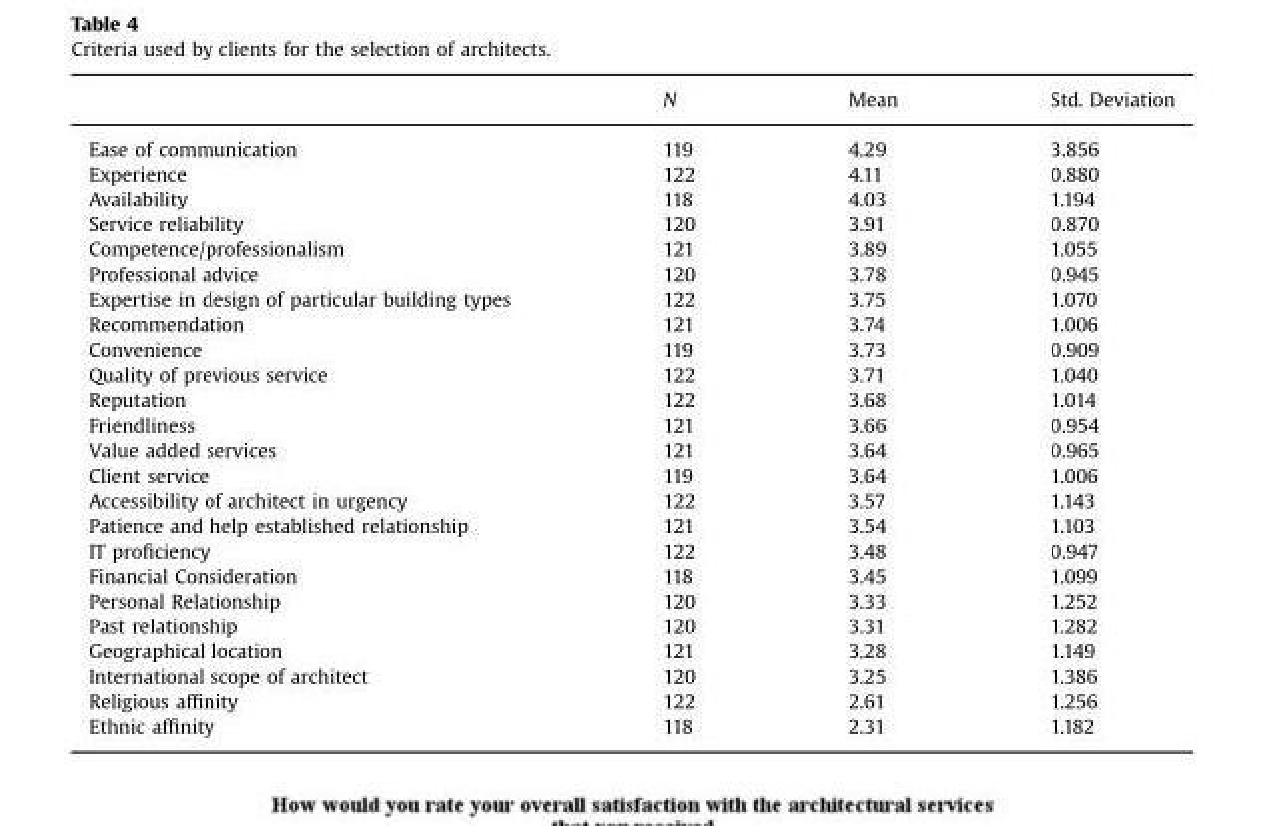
<table><thead><tr><td></td><td>N</td><td>Mean</td><td>Std. Deviation</td></tr></thead><tbody><tr><td>Ease of communication</td><td>119</td><td>4.29</td><td>3.856</td></tr><tr><td>Experience</td><td>122</td><td>4.11</td><td>0.880</td></tr><tr><td>Availability</td><td>118</td><td>4.03</td><td>1.194</td></tr><tr><td>Service reliability</td><td>120</td><td>3.91</td><td>0.870</td></tr><tr><td>Competence/professionalism</td><td>121</td><td>3.89</td><td>1.055</td></tr><tr><td>Professional advice</td><td>120</td><td>3.78</td><td>0.945</td></tr><tr><td>Expertise in design of particular building types</td><td>122</td><td>3.75</td><td>1.070</td></tr><tr><td>Recommendation</td><td>121</td><td>3.74</td><td>1.006</td></tr><tr><td>Convenience</td><td>119</td><td>3.73</td><td>0.909</td></tr><tr><td>Quality of previous service</td><td>122</td><td>3.71</td><td>1.040</td></tr><tr><td>Reputation</td><td>122</td><td>3.68</td><td>1.014</td></tr><tr><td>Friendliness</td><td>121</td><td>3.66</td><td>0.954</td></tr><tr><td>Value added services</td><td>121</td><td>3.64</td><td>0.965</td></tr><tr><td>Client service</td><td>119</td><td>3.64</td><td>1.006</td></tr><tr><td>Accessibility of architect in urgency</td><td>122</td><td>3.57</td><td>1.143</td></tr><tr><td>Patience and help established relationship</td><td>121</td><td>3.54</td><td>1.103</td></tr><tr><td>IT proficiency</td><td>122</td><td>3.48</td><td>0.947</td></tr><tr><td>Financial Consideration</td><td>118</td><td>3.45</td><td>1.099</td></tr><tr><td>Personal Relationship</td><td>120</td><td>3.33</td><td>1.252</td></tr><tr><td>Past relationship</td><td>120</td><td>3.31</td><td>1.282</td></tr><tr><td>Geographical location</td><td>121</td><td>3.28</td><td>1.149</td></tr><tr><td>International scope of architect</td><td>120</td><td>3.25</td><td>1.386</td></tr><tr><td>Religious affinity</td><td>122</td><td>2.61</td><td>1.256</td></tr><tr><td>Ethnic affinity</td><td>118</td><td>2.31</td><td>1.182</td></tr></tbody></table>